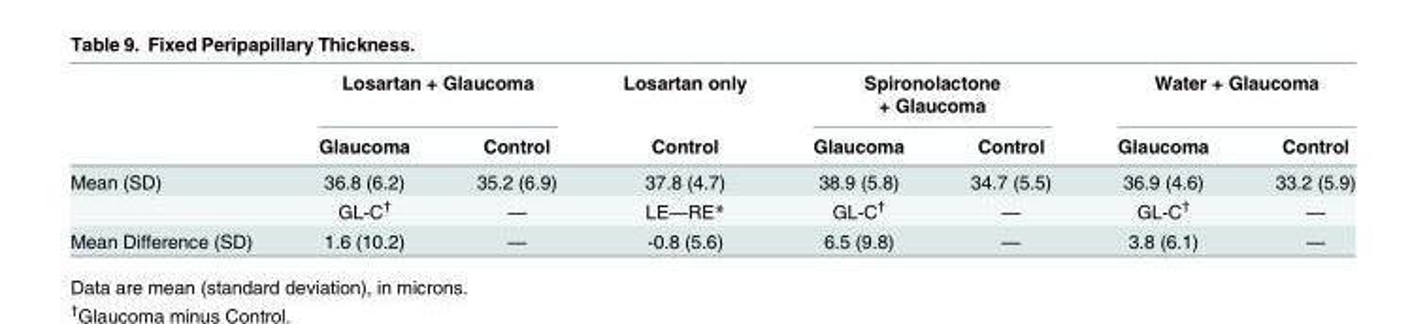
<table><thead><tr><td rowspan="2"></td><td colspan="2">Losartan + Glaucoma</td><td rowspan="2">Losartan only Control</td><td colspan="2">Spironolactone + Glaucoma</td><td colspan="2">Water + Glaucoma</td></tr><tr><td>Glaucoma</td><td>Control</td><td>Glaucoma</td><td>Control</td><td>Glaucoma</td><td>Control</td></tr></thead><tbody><tr><td rowspan="2">Mean (SD)</td><td>36.8 (6.2)</td><td>35.2 (6.9)</td><td>37.8 (4.7)</td><td>38.9 (5.8)</td><td>34.7 (5.5)</td><td>36.9 (4.6)</td><td>33.2 (5.9)</td></tr><tr><td>GL-C<sup>†</sup></td><td>—</td><td>LE—RE*</td><td>GL-C<sup>†</sup></td><td>—</td><td>GL-C<sup>†</sup></td><td>—</td></tr><tr><td>Mean Difference (SD)</td><td>1.6 (10.2)</td><td>—</td><td>-0.8 (5.6)</td><td>6.5 (9.8)</td><td>—</td><td>3.8 (6.1)</td><td>—</td></tr></tbody></table>